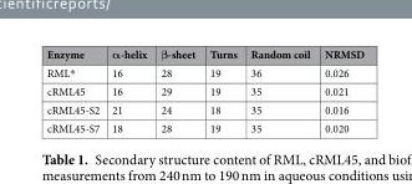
<table><thead><tr><td>Enzyme</td><td>α-helix</td><td>β-sheet</td><td>Turns</td><td>Random coil</td><td>NRMSD</td></tr></thead><tbody><tr><td>RML*</td><td>16</td><td>28</td><td>19</td><td>36</td><td>0.026</td></tr><tr><td>cRML45</td><td>16</td><td>29</td><td>19</td><td>35</td><td>0.021</td></tr><tr><td>cRML45-S2</td><td>21</td><td>24</td><td>18</td><td>35</td><td>0.016</td></tr><tr><td>cRML45-S7</td><td>18</td><td>28</td><td>19</td><td>35</td><td>0.020</td></tr></tbody></table>